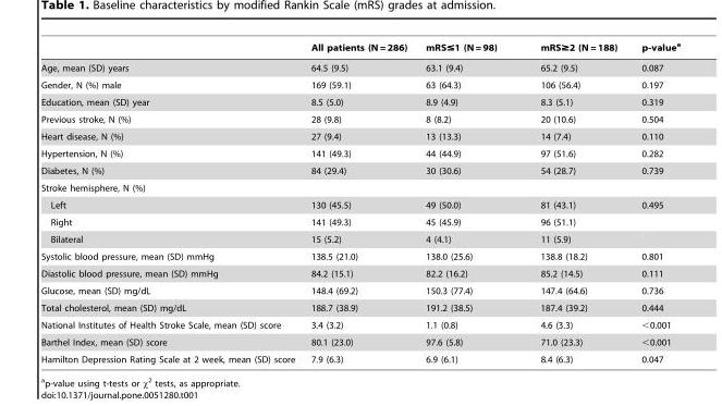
<table><thead><tr><td></td><td>All patients (N = 286)</td><td>mRS≤1 (N = 98)</td><td>mRS≥2 (N = 188)</td><td>p-value<sup>a</sup></td></tr></thead><tbody><tr><td>Age, mean (SD) years</td><td>64.5 (9.5)</td><td>63.1 (9.4)</td><td>65.2 (9.5)</td><td>0.087</td></tr><tr><td>Gender, N (%) male</td><td>169 (59.1)</td><td>63 (64.3)</td><td>106 (56.4)</td><td>0.197</td></tr><tr><td>Education, mean (SD) year</td><td>8.5 (5.0)</td><td>8.9 (4.9)</td><td>8.3 (5.1)</td><td>0.319</td></tr><tr><td>Previous stroke, N (%)</td><td>28 (9.8)</td><td>8 (8.2)</td><td>20 (10.6)</td><td>0.504</td></tr><tr><td>Heart disease, N (%)</td><td>27 (9.4)</td><td>13 (13.3)</td><td>14 (7.4)</td><td>0.110</td></tr><tr><td>Hypertension, N (%)</td><td>141 (49.3)</td><td>44 (44.9)</td><td>97 (51.6)</td><td>0.282</td></tr><tr><td>Diabetes, N (%)</td><td>84 (29.4)</td><td>30 (30.6)</td><td>54 (28.7)</td><td>0.739</td></tr><tr><td colspan="5">Stroke hemisphere, N (%)</td></tr><tr><td>Left</td><td>130 (45.5)</td><td>49 (50.0)</td><td>81 (43.1)</td><td>0.495</td></tr><tr><td>Right</td><td>141 (49.3)</td><td>45 (45.9)</td><td>96 (51.1)</td><td></td></tr><tr><td>Bilateral</td><td>15 (5.2)</td><td>4 (4.1)</td><td>11 (5.9)</td><td></td></tr><tr><td>Systolic blood pressure, mean (SD) mmHg</td><td>138.5 (21.0)</td><td>138.0 (25.6)</td><td>138.8 (18.2)</td><td>0.801</td></tr><tr><td>Diastolic blood pressure, mean (SD) mmHg</td><td>84.2 (15.1)</td><td>82.2 (16.2)</td><td>85.2 (14.5)</td><td>0.111</td></tr><tr><td>Glucose, mean (SD) mg/dL</td><td>148.4 (69.2)</td><td>150.3 (77.4)</td><td>147.4 (64.6)</td><td>0.736</td></tr><tr><td>Total cholesterol, mean (SD) mg/dL</td><td>188.7 (38.9)</td><td>191.2 (38.5)</td><td>187.4 (39.2)</td><td>0.444</td></tr><tr><td>National Institutes of Health Stroke Scale, mean (SD) score</td><td>3.4 (3.2)</td><td>1.1 (0.8)</td><td>4.6 (3.3)</td><td>&lt;0.001</td></tr><tr><td>Barthel Index, mean (SD) score</td><td>80.1 (23.0)</td><td>97.6 (5.8)</td><td>71.0 (23.3)</td><td>&lt;0.001</td></tr><tr><td>Hamilton Depression Rating Scale at 2 week, mean (SD) score</td><td>7.9 (6.3)</td><td>6.9 (6.1)</td><td>8.4 (6.3)</td><td>0.047</td></tr></tbody></table>